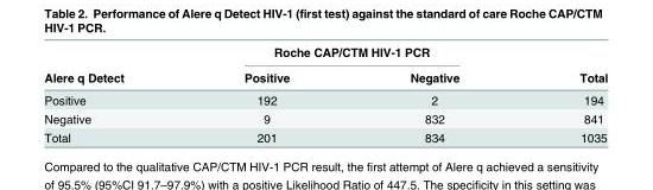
<table><thead><tr><td rowspan="2">Alere q Detect</td><td colspan="2">Roche CAP/CTM HIV-1 PCR</td><td rowspan="2">Total</td></tr><tr><td>Positive</td><td>Negative</td></tr></thead><tbody><tr><td>Positive</td><td>192</td><td>2</td><td>194</td></tr><tr><td>Negative</td><td>9</td><td>832</td><td>841</td></tr><tr><td>Total</td><td>201</td><td>834</td><td>1035</td></tr></tbody></table>